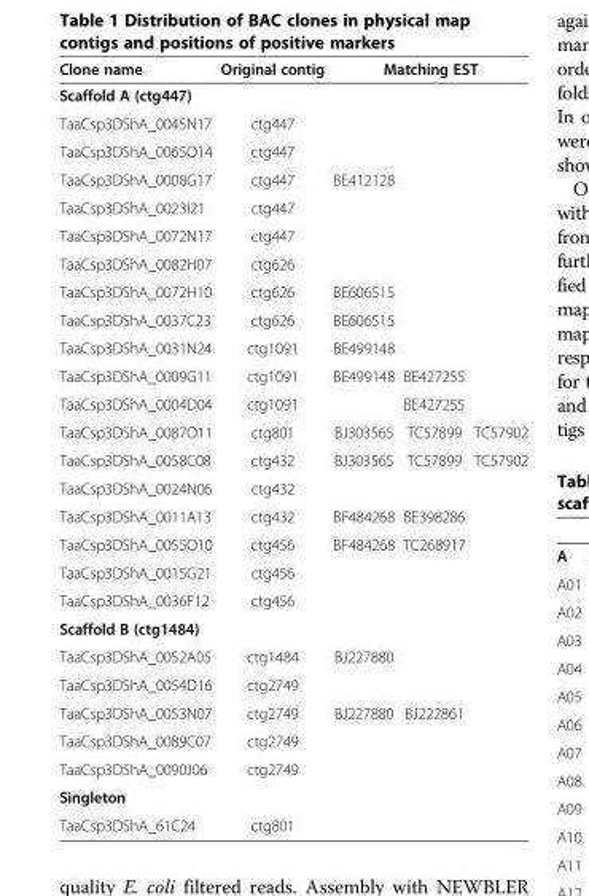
<table><thead><tr><td rowspan="2">Clone name Scaffold A (ctg447)</td><td rowspan="2">Original contig</td><td colspan="3">Matching EST</td></tr><tr><td></td><td></td><td></td></tr></thead><tbody><tr><td>TaaCsp3DShA_0045N17</td><td>ctg447</td><td></td><td></td><td></td></tr><tr><td>TaaCsp3DShA_0065O14</td><td>ctg447</td><td></td><td></td><td></td></tr><tr><td>TaaCsp3DShA_0008G17</td><td>ctg447</td><td>BE412128</td><td></td><td></td></tr><tr><td>TaaCsp3DShA_0023I21</td><td>ctg447</td><td></td><td></td><td></td></tr><tr><td>TaaCsp3DShA_0072N17</td><td>ctg447</td><td></td><td></td><td></td></tr><tr><td>TaaCsp3DShA_0082H07</td><td>ctg626</td><td></td><td></td><td></td></tr><tr><td>TaaCsp3DShA_0072H10</td><td>ctg626</td><td>BE606515</td><td></td><td></td></tr><tr><td>TaaCsp3DShA_0037C23</td><td>ctg626</td><td>BE606515</td><td></td><td></td></tr><tr><td>TaaCsp3DShA_0031N24</td><td>ctg1091</td><td>BE499148</td><td></td><td></td></tr><tr><td>TaaCsp3DShA_0009G11</td><td>ctg1091</td><td>BE499148</td><td>BE427255</td><td></td></tr><tr><td>TaaCsp3DShA_0004D04</td><td>ctg1091</td><td></td><td>BE427255</td><td></td></tr><tr><td>TaaCsp3DShA_0087O11</td><td>ctg801</td><td>BJ303565</td><td>TC57899</td><td>TC57902</td></tr><tr><td>TaaCsp3DShA_0058C08</td><td>ctg432</td><td>BJ303565</td><td>TC57899</td><td>TC57902</td></tr><tr><td>TaaCsp3DShA_0024N06</td><td>ctg432</td><td></td><td></td><td></td></tr><tr><td>TaaCsp3DShA_0011A13</td><td>ctg432</td><td>BF484268</td><td>BE398286</td><td></td></tr><tr><td>TaaCsp3DShA_0055O10</td><td>ctg456</td><td>BF484268</td><td>TC268917</td><td></td></tr><tr><td>TaaCsp3DShA_0015G21</td><td>ctg456</td><td></td><td></td><td></td></tr><tr><td>TaaCsp3DShA_0036F12</td><td>ctg456</td><td></td><td></td><td></td></tr><tr><td colspan="5">Scaffold B (ctg1484)</td></tr><tr><td>TaaCsp3DShA_0052A05</td><td>ctg1484</td><td>BJ227880</td><td></td><td></td></tr><tr><td>TaaCsp3DShA_0054D16</td><td>ctg2749</td><td></td><td></td><td></td></tr><tr><td>TaaCsp3DShA_0053N07</td><td>ctg2749</td><td>BJ227880</td><td>BJ222861</td><td></td></tr><tr><td>TaaCsp3DShA_0089C07</td><td>ctg2749</td><td></td><td></td><td></td></tr><tr><td>TaaCsp3DShA_0090J06</td><td>ctg2749</td><td></td><td></td><td></td></tr><tr><td colspan="5">Singleton</td></tr><tr><td>TaaCsp3DShA_61C24</td><td>ctg801</td><td></td><td></td><td></td></tr></tbody></table>